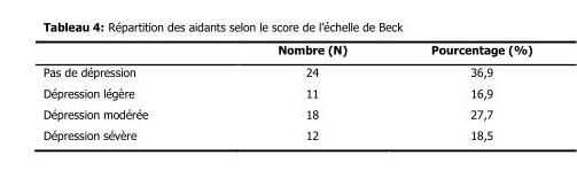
<table><thead><tr><td></td><td>Nombre (N)</td><td>Pourcentage (%)</td></tr></thead><tbody><tr><td>Pas de dépression</td><td>24</td><td>36,9</td></tr><tr><td>Dépression légère</td><td>11</td><td>16,9</td></tr><tr><td>Dépression modérée</td><td>18</td><td>27,7</td></tr><tr><td>Dépression sévère</td><td>12</td><td>18,5</td></tr></tbody></table>